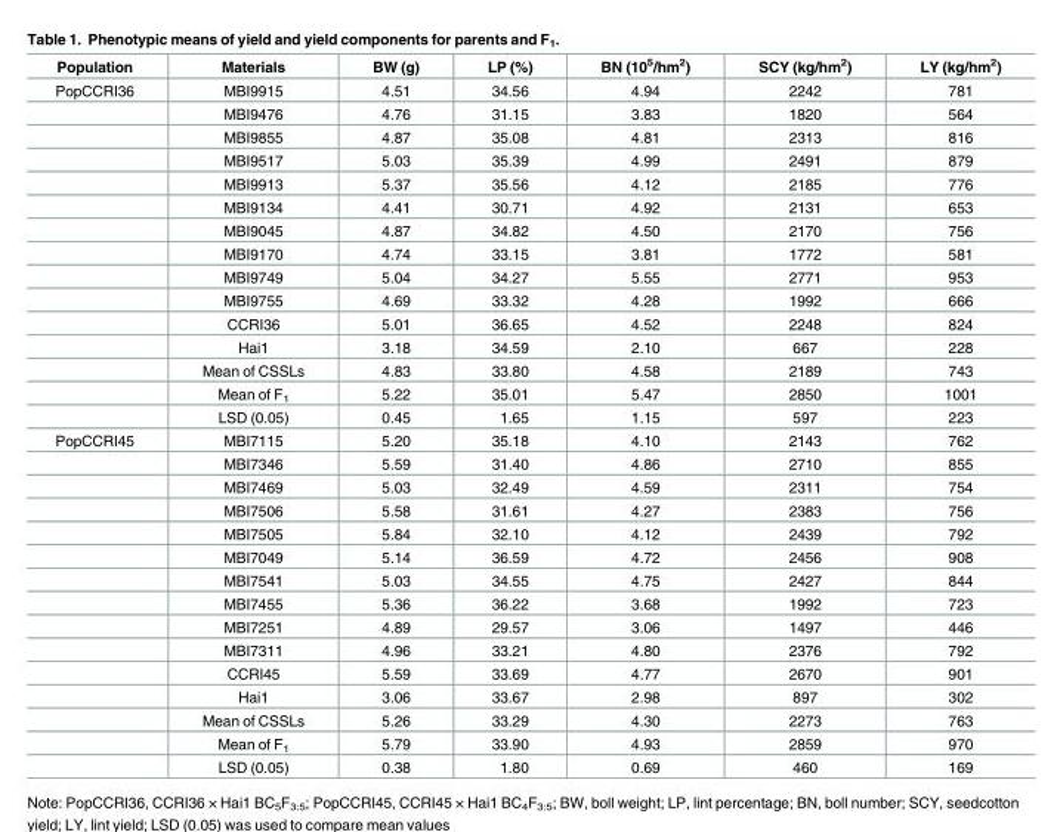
<table><thead><tr><td>Population</td><td>Materials</td><td>BW (g)</td><td>LP (%)</td><td>BN (10<sup>5</sup>/hm<sup>2</sup>)</td><td>SCY (kg/hm<sup>2</sup>)</td><td>LY (kg/hm<sup>2</sup>)</td></tr></thead><tbody><tr><td rowspan="15">PopCCRI36</td><td>MBI9915</td><td>4.51</td><td>34.56</td><td>4.94</td><td>2242</td><td>781</td></tr><tr><td>MBI9476</td><td>4.76</td><td>31.15</td><td>3.83</td><td>1820</td><td>564</td></tr><tr><td>MBI9855</td><td>4.87</td><td>35.08</td><td>4.81</td><td>2313</td><td>816</td></tr><tr><td>MBI9517</td><td>5.03</td><td>35.39</td><td>4.99</td><td>2491</td><td>879</td></tr><tr><td>MBI9913</td><td>5.37</td><td>35.56</td><td>4.12</td><td>2185</td><td>776</td></tr><tr><td>MBI9134</td><td>4.41</td><td>30.71</td><td>4.92</td><td>2131</td><td>653</td></tr><tr><td>MBI9045</td><td>4.87</td><td>34.82</td><td>4.50</td><td>2170</td><td>756</td></tr><tr><td>MBI9170</td><td>4.74</td><td>33.15</td><td>3.81</td><td>1772</td><td>581</td></tr><tr><td>MBI9749</td><td>5.04</td><td>34.27</td><td>5.55</td><td>2771</td><td>953</td></tr><tr><td>MBI9755</td><td>4.69</td><td>33.32</td><td>4.28</td><td>1992</td><td>666</td></tr><tr><td>CCRI36</td><td>5.01</td><td>36.65</td><td>4.52</td><td>2248</td><td>824</td></tr><tr><td>Hai1</td><td>3.18</td><td>34.59</td><td>2.10</td><td>667</td><td>228</td></tr><tr><td>Mean of CSSLs</td><td>4.83</td><td>33.80</td><td>4.58</td><td>2189</td><td>743</td></tr><tr><td>Mean of F<sub>1</sub></td><td>5.22</td><td>35.01</td><td>5.47</td><td>2850</td><td>1001</td></tr><tr><td>LSD (0.05)</td><td>0.45</td><td>1.65</td><td>1.15</td><td>597</td><td>223</td></tr><tr><td rowspan="15">PopCCRI45</td><td>MBI7115</td><td>5.20</td><td>35.18</td><td>4.10</td><td>2143</td><td>762</td></tr><tr><td>MBI7346</td><td>5.59</td><td>31.40</td><td>4.86</td><td>2710</td><td>855</td></tr><tr><td>MBI7469</td><td>5.03</td><td>32.49</td><td>4.59</td><td>2311</td><td>754</td></tr><tr><td>MBI7506</td><td>5.58</td><td>31.61</td><td>4.27</td><td>2383</td><td>756</td></tr><tr><td>MBI7505</td><td>5.84</td><td>32.10</td><td>4.12</td><td>2439</td><td>792</td></tr><tr><td>MBI7049</td><td>5.14</td><td>36.59</td><td>4.72</td><td>2456</td><td>908</td></tr><tr><td>MBI7541</td><td>5.03</td><td>34.55</td><td>4.75</td><td>2427</td><td>844</td></tr><tr><td>MBI7455</td><td>5.36</td><td>36.22</td><td>3.68</td><td>1992</td><td>723</td></tr><tr><td>MBI7251</td><td>4.89</td><td>29.57</td><td>3.06</td><td>1497</td><td>446</td></tr><tr><td>MBI7311</td><td>4.96</td><td>33.21</td><td>4.80</td><td>2376</td><td>792</td></tr><tr><td>CCRI45</td><td>5.59</td><td>33.69</td><td>4.77</td><td>2670</td><td>901</td></tr><tr><td>Hai1</td><td>3.06</td><td>33.67</td><td>2.98</td><td>897</td><td>302</td></tr><tr><td>Mean of CSSLs</td><td>5.26</td><td>33.29</td><td>4.30</td><td>2273</td><td>763</td></tr><tr><td>Mean of F<sub>1</sub></td><td>5.79</td><td>33.90</td><td>4.93</td><td>2859</td><td>970</td></tr><tr><td>LSD (0.05)</td><td>0.38</td><td>1.80</td><td>0.69</td><td>460</td><td>169</td></tr></tbody></table>